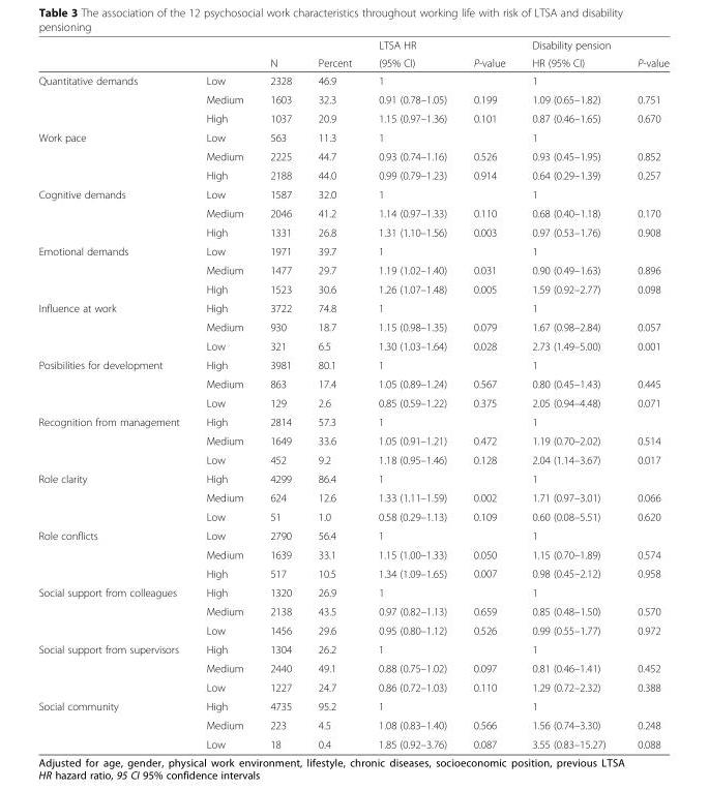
<table><thead><tr><td rowspan="2"></td><td rowspan="2"></td><td rowspan="2">N</td><td rowspan="2">Percent</td><td rowspan="2">LTSA HR (95% CI)</td><td rowspan="2">P-value</td><td rowspan="2">Disability pension HR (95% CI)</td><td rowspan="2">P-value</td></tr><tr></tr></thead><tbody><tr><td rowspan="3">Quantitative demands</td><td>Low</td><td>2328</td><td>46.9</td><td>1</td><td></td><td>1</td><td></td></tr><tr><td>Medium</td><td>1603</td><td>32.3</td><td>0.91 (0.78–1.05)</td><td>0.199</td><td>1.09 (0.65–1.82)</td><td>0.751</td></tr><tr><td>High</td><td>1037</td><td>20.9</td><td>1.15 (0.97–1.36)</td><td>0.101</td><td>0.87 (0.46–1.65)</td><td>0.670</td></tr><tr><td rowspan="3">Work pace</td><td>Low</td><td>563</td><td>11.3</td><td>1</td><td></td><td>1</td><td></td></tr><tr><td>Medium</td><td>2225</td><td>44.7</td><td>0.93 (0.74–1.16)</td><td>0.526</td><td>0.93 (0.45–1.95)</td><td>0.852</td></tr><tr><td>High</td><td>2188</td><td>44.0</td><td>0.99 (0.79–1.23)</td><td>0.914</td><td>0.64 (0.29–1.39)</td><td>0.257</td></tr><tr><td rowspan="3">Cognitive demands</td><td>Low</td><td>1587</td><td>32.0</td><td>1</td><td></td><td>1</td><td></td></tr><tr><td>Medium</td><td>2046</td><td>41.2</td><td>1.14 (0.97–1.33)</td><td>0.110</td><td>0.68 (0.40–1.18)</td><td>0.170</td></tr><tr><td>High</td><td>1331</td><td>26.8</td><td>1.31 (1.10–1.56)</td><td>0.003</td><td>0.97 (0.53–1.76)</td><td>0.908</td></tr><tr><td rowspan="3">Emotional demands</td><td>Low</td><td>1971</td><td>39.7</td><td>1</td><td></td><td>1</td><td></td></tr><tr><td>Medium</td><td>1477</td><td>29.7</td><td>1.19 (1.02–1.40)</td><td>0.031</td><td>0.90 (0.49–1.63)</td><td>0.896</td></tr><tr><td>High</td><td>1523</td><td>30.6</td><td>1.26 (1.07–1.48)</td><td>0.005</td><td>1.59 (0.92–2.77)</td><td>0.098</td></tr><tr><td rowspan="3">Influence at work</td><td>High</td><td>3722</td><td>74.8</td><td>1</td><td></td><td>1</td><td></td></tr><tr><td>Medium</td><td>930</td><td>18.7</td><td>1.15 (0.98–1.35)</td><td>0.079</td><td>1.67 (0.98–2.84)</td><td>0.057</td></tr><tr><td>Low</td><td>321</td><td>6.5</td><td>1.30 (1.03–1.64)</td><td>0.028</td><td>2.73 (1.49–5.00)</td><td>0.001</td></tr><tr><td rowspan="3">Posibilities for development</td><td>High</td><td>3981</td><td>80.1</td><td>1</td><td></td><td>1</td><td></td></tr><tr><td>Medium</td><td>863</td><td>17.4</td><td>1.05 (0.89–1.24)</td><td>0.567</td><td>0.80 (0.45–1.43)</td><td>0.445</td></tr><tr><td>Low</td><td>129</td><td>2.6</td><td>0.85 (0.59–1.22)</td><td>0.375</td><td>2.05 (0.94–4.48)</td><td>0.071</td></tr><tr><td rowspan="3">Recognition from management</td><td>High</td><td>2814</td><td>57.3</td><td>1</td><td></td><td>1</td><td></td></tr><tr><td>Medium</td><td>1649</td><td>33.6</td><td>1.05 (0.91–1.21)</td><td>0.472</td><td>1.19 (0.70–2.02)</td><td>0.514</td></tr><tr><td>Low</td><td>452</td><td>9.2</td><td>1.18 (0.95–1.46)</td><td>0.128</td><td>2.04 (1.14–3.67)</td><td>0.017</td></tr><tr><td rowspan="3">Role clarity</td><td>High</td><td>4299</td><td>86.4</td><td>1</td><td></td><td>1</td><td></td></tr><tr><td>Medium</td><td>624</td><td>12.6</td><td>1.33 (1.11–1.59)</td><td>0.002</td><td>1.71 (0.97–3.01)</td><td>0.066</td></tr><tr><td>Low</td><td>51</td><td>1.0</td><td>0.58 (0.29–1.13)</td><td>0.109</td><td>0.60 (0.08–5.51)</td><td>0.620</td></tr><tr><td rowspan="3">Role conflicts</td><td>Low</td><td>2790</td><td>56.4</td><td>1</td><td></td><td>1</td><td></td></tr><tr><td>Medium</td><td>1639</td><td>33.1</td><td>1.15 (1.00–1.33)</td><td>0.050</td><td>1.15 (0.70–1.89)</td><td>0.574</td></tr><tr><td>High</td><td>517</td><td>10.5</td><td>1.34 (1.09–1.65)</td><td>0.007</td><td>0.98 (0.45–2.12)</td><td>0.958</td></tr><tr><td rowspan="3">Social support from colleagues</td><td>High</td><td>1320</td><td>26.9</td><td>1</td><td></td><td>1</td><td></td></tr><tr><td>Medium</td><td>2138</td><td>43.5</td><td>0.97 (0.82–1.13)</td><td>0.659</td><td>0.85 (0.48–1.50)</td><td>0.570</td></tr><tr><td>Low</td><td>1456</td><td>29.6</td><td>0.95 (0.80–1.12)</td><td>0.526</td><td>0.99 (0.55–1.77)</td><td>0.972</td></tr><tr><td rowspan="3">Social support from supervisors</td><td>High</td><td>1304</td><td>26.2</td><td>1</td><td></td><td>1</td><td></td></tr><tr><td>Medium</td><td>2440</td><td>49.1</td><td>0.88 (0.75–1.02)</td><td>0.097</td><td>0.81 (0.46–1.41)</td><td>0.452</td></tr><tr><td>Low</td><td>1227</td><td>24.7</td><td>0.86 (0.72–1.03)</td><td>0.110</td><td>1.29 (0.72–2.32)</td><td>0.388</td></tr><tr><td rowspan="3">Social community</td><td>High</td><td>4735</td><td>95.2</td><td>1</td><td></td><td>1</td><td></td></tr><tr><td>Medium</td><td>223</td><td>4.5</td><td>1.08 (0.83–1.40)</td><td>0.566</td><td>1.56 (0.74–3.30)</td><td>0.248</td></tr><tr><td>Low</td><td>18</td><td>0.4</td><td>1.85 (0.92–3.76)</td><td>0.087</td><td>3.55 (0.83–15.27)</td><td>0.088</td></tr></tbody></table>